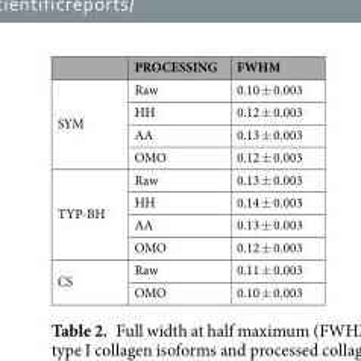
<table><thead><tr><td></td><td>PROCESSING</td><td>FWHM</td></tr></thead><tbody><tr><td rowspan="4">SYM</td><td>Raw</td><td>0.10 ± 0.003</td></tr><tr><td>HH</td><td>0.12 ± 0.003</td></tr><tr><td>AA</td><td>0.13 ± 0.003</td></tr><tr><td>OMO</td><td>0.12 ± 0.003</td></tr><tr><td rowspan="4">TYP-BH</td><td>Raw</td><td>0.13 ± 0.003</td></tr><tr><td>HH</td><td>0.14 ± 0.003</td></tr><tr><td>AA</td><td>0.13 ± 0.003</td></tr><tr><td>OMO</td><td>0.12 ± 0.003</td></tr><tr><td rowspan="2">CS</td><td>Raw</td><td>0.11 ± 0.003</td></tr><tr><td>OMO</td><td>0.10 ± 0.003</td></tr></tbody></table>